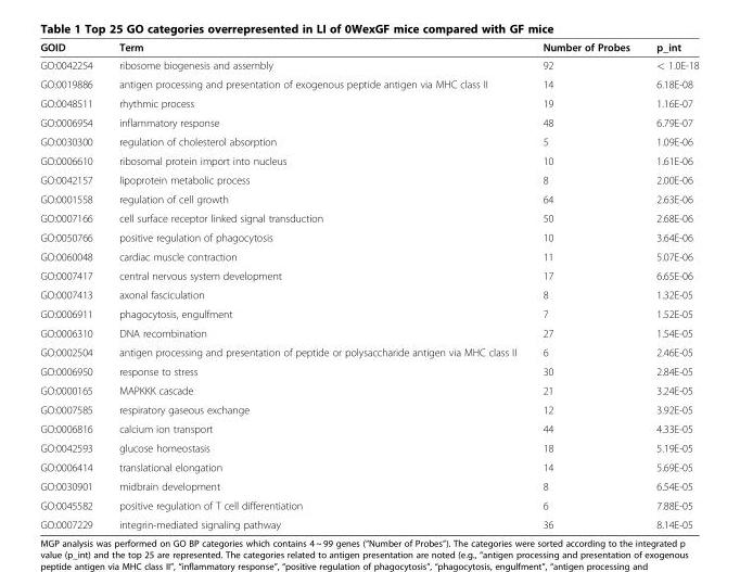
<table><thead><tr><td>GOID</td><td>Term</td><td>Number of Probes</td><td>p_int</td></tr></thead><tbody><tr><td>GO:0042254</td><td>ribosome biogenesis and assembly</td><td>92</td><td>&lt; 1.0E-18</td></tr><tr><td>GO:0019886</td><td>antigen processing and presentation of exogenous peptide antigen via MHC class II</td><td>14</td><td>6.18E-08</td></tr><tr><td>GO:0048511</td><td>rhythmic process</td><td>19</td><td>1.16E-07</td></tr><tr><td>GO:0006954</td><td>inflammatory response</td><td>48</td><td>6.79E-07</td></tr><tr><td>GO:0030300</td><td>regulation of cholesterol absorption</td><td>5</td><td>1.09E-06</td></tr><tr><td>GO:0006610</td><td>ribosomal protein import into nucleus</td><td>10</td><td>1.61E-06</td></tr><tr><td>GO:0042157</td><td>lipoprotein metabolic process</td><td>8</td><td>2.00E-06</td></tr><tr><td>GO:0001558</td><td>regulation of cell growth</td><td>64</td><td>2.63E-06</td></tr><tr><td>GO:0007166</td><td>cell surface receptor linked signal transduction</td><td>50</td><td>2.68E-06</td></tr><tr><td>GO:0050766</td><td>positive regulation of phagocytosis</td><td>10</td><td>3.64E-06</td></tr><tr><td>GO:0060048</td><td>cardiac muscle contraction</td><td>11</td><td>5.07E-06</td></tr><tr><td>GO:0007417</td><td>central nervous system development</td><td>17</td><td>6.65E-06</td></tr><tr><td>GO:0007413</td><td>axonal fasciculation</td><td>8</td><td>1.32E-05</td></tr><tr><td>GO:0006911</td><td>phagocytosis, engulfment</td><td>7</td><td>1.52E-05</td></tr><tr><td>GO:0006310</td><td>DNA recombination</td><td>27</td><td>1.54E-05</td></tr><tr><td>GO:0002504</td><td>antigen processing and presentation of peptide or polysaccharide antigen via MHC class II</td><td>6</td><td>2.46E-05</td></tr><tr><td>GO:0006950</td><td>response to stress</td><td>30</td><td>2.84E-05</td></tr><tr><td>GO:0000165</td><td>MAPKKK cascade</td><td>21</td><td>3.24E-05</td></tr><tr><td>GO:0007585</td><td>respiratory gaseous exchange</td><td>12</td><td>3.92E-05</td></tr><tr><td>GO:0006816</td><td>calcium ion transport</td><td>44</td><td>4.33E-05</td></tr><tr><td>GO:0042593</td><td>glucose homeostasis</td><td>18</td><td>5.19E-05</td></tr><tr><td>GO:0006414</td><td>translational elongation</td><td>14</td><td>5.69E-05</td></tr><tr><td>GO:0030901</td><td>midbrain development</td><td>8</td><td>6.54E-05</td></tr><tr><td>GO:0045582</td><td>positive regulation of T cell differentiation</td><td>6</td><td>7.88E-05</td></tr><tr><td>GO:0007229</td><td>integrin-mediated signaling pathway</td><td>36</td><td>8.14E-05</td></tr></tbody></table>